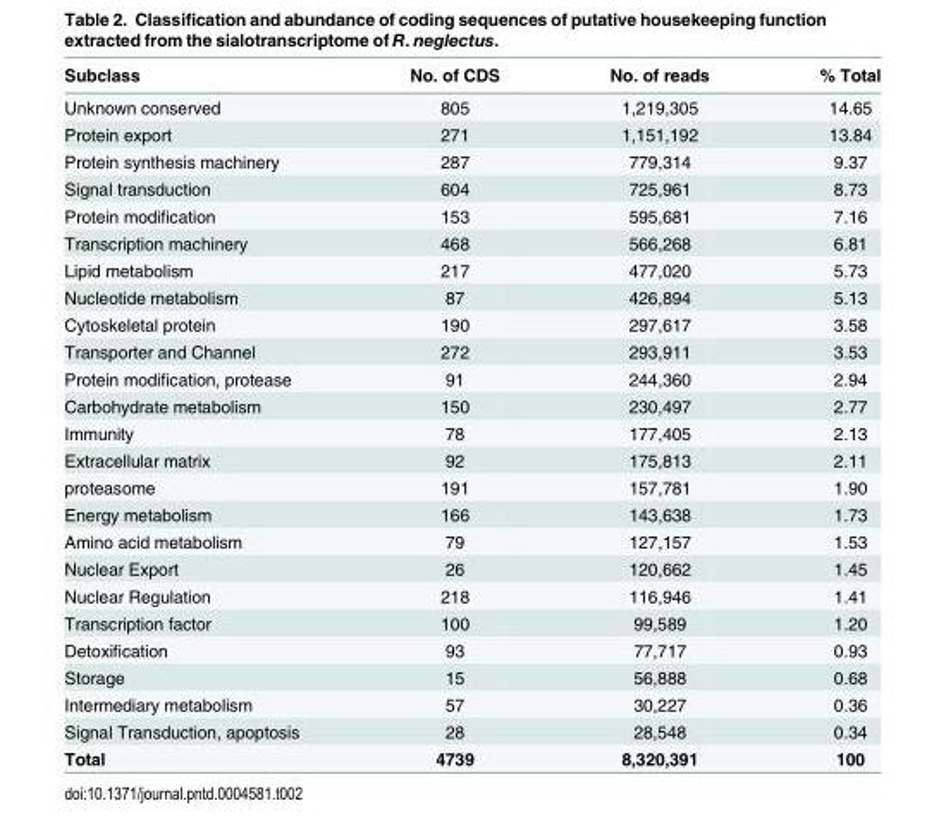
<table><thead><tr><td>Subclass</td><td>No. of CDS</td><td>No. of reads</td><td>% Total</td></tr></thead><tbody><tr><td>Unknown conserved</td><td>805</td><td>1,219,305</td><td>14.65</td></tr><tr><td>Protein export</td><td>271</td><td>1,151,192</td><td>13.84</td></tr><tr><td>Protein synthesis machinery</td><td>287</td><td>779,314</td><td>9.37</td></tr><tr><td>Signal transduction</td><td>604</td><td>725,961</td><td>8.73</td></tr><tr><td>Protein modification</td><td>153</td><td>595,681</td><td>7.16</td></tr><tr><td>Transcription machinery</td><td>468</td><td>566,268</td><td>6.81</td></tr><tr><td>Lipid metabolism</td><td>217</td><td>477,020</td><td>5.73</td></tr><tr><td>Nucleotide metabolism</td><td>87</td><td>426,894</td><td>5.13</td></tr><tr><td>Cytoskeletal protein</td><td>190</td><td>297,617</td><td>3.58</td></tr><tr><td>Transporter and Channel</td><td>272</td><td>293,911</td><td>3.53</td></tr><tr><td>Protein modification, protease</td><td>91</td><td>244,360</td><td>2.94</td></tr><tr><td>Carbohydrate metabolism</td><td>150</td><td>230,497</td><td>2.77</td></tr><tr><td>Immunity</td><td>78</td><td>177,405</td><td>2.13</td></tr><tr><td>Extracellular matrix</td><td>92</td><td>175,813</td><td>2.11</td></tr><tr><td>proteasome</td><td>191</td><td>157,781</td><td>1.90</td></tr><tr><td>Energy metabolism</td><td>166</td><td>143,638</td><td>1.73</td></tr><tr><td>Amino acid metabolism</td><td>79</td><td>127,157</td><td>1.53</td></tr><tr><td>Nuclear Export</td><td>26</td><td>120,662</td><td>1.45</td></tr><tr><td>Nuclear Regulation</td><td>218</td><td>116,946</td><td>1.41</td></tr><tr><td>Transcription factor</td><td>100</td><td>99,589</td><td>1.20</td></tr><tr><td>Detoxification</td><td>93</td><td>77,717</td><td>0.93</td></tr><tr><td>Storage</td><td>15</td><td>56,888</td><td>0.68</td></tr><tr><td>Intermediary metabolism</td><td>57</td><td>30,227</td><td>0.36</td></tr><tr><td>Signal Transduction, apoptosis</td><td>28</td><td>28,548</td><td>0.34</td></tr><tr><td>Total</td><td>4739</td><td>8,320,391</td><td>100</td></tr></tbody></table>